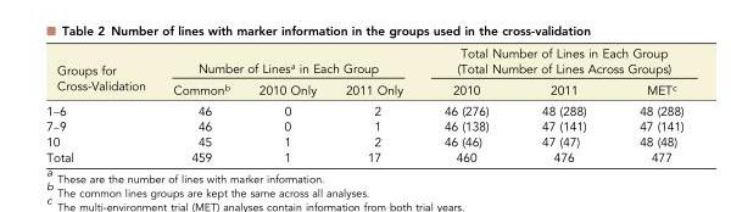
<table><thead><tr><td rowspan="2">Groups for Cross-Validation</td><td colspan="3">Number of Lines<sup>a</sup> in Each Group</td><td colspan="3">Total Number of Lines in Each Group (Total Number of Lines Across Groups)</td></tr><tr><td>Common<sup>b</sup></td><td>2010 Only</td><td>2011 Only</td><td>2010</td><td>2011</td><td>MET<sup>c</sup></td></tr></thead><tbody><tr><td>1–6</td><td>46</td><td>0</td><td>2</td><td>46 (276)</td><td>48 (288)</td><td>48 (288)</td></tr><tr><td>7–9</td><td>46</td><td>0</td><td>1</td><td>46 (138)</td><td>47 (141)</td><td>47 (141)</td></tr><tr><td>10</td><td>45</td><td>1</td><td>2</td><td>46 (46)</td><td>47 (47)</td><td>48 (48)</td></tr><tr><td>Total</td><td>459</td><td>1</td><td>17</td><td>460</td><td>476</td><td>477</td></tr></tbody></table>